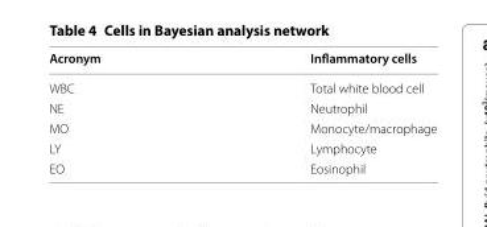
<table><thead><tr><td>Acronym</td><td>Inflammatory cells</td></tr></thead><tbody><tr><td>WBC</td><td>Total white blood cell</td></tr><tr><td>NE</td><td>Neutrophil</td></tr><tr><td>MO</td><td>Monocyte/macrophage</td></tr><tr><td>LY</td><td>Lymphocyte</td></tr><tr><td>EO</td><td>Eosinophil</td></tr></tbody></table>